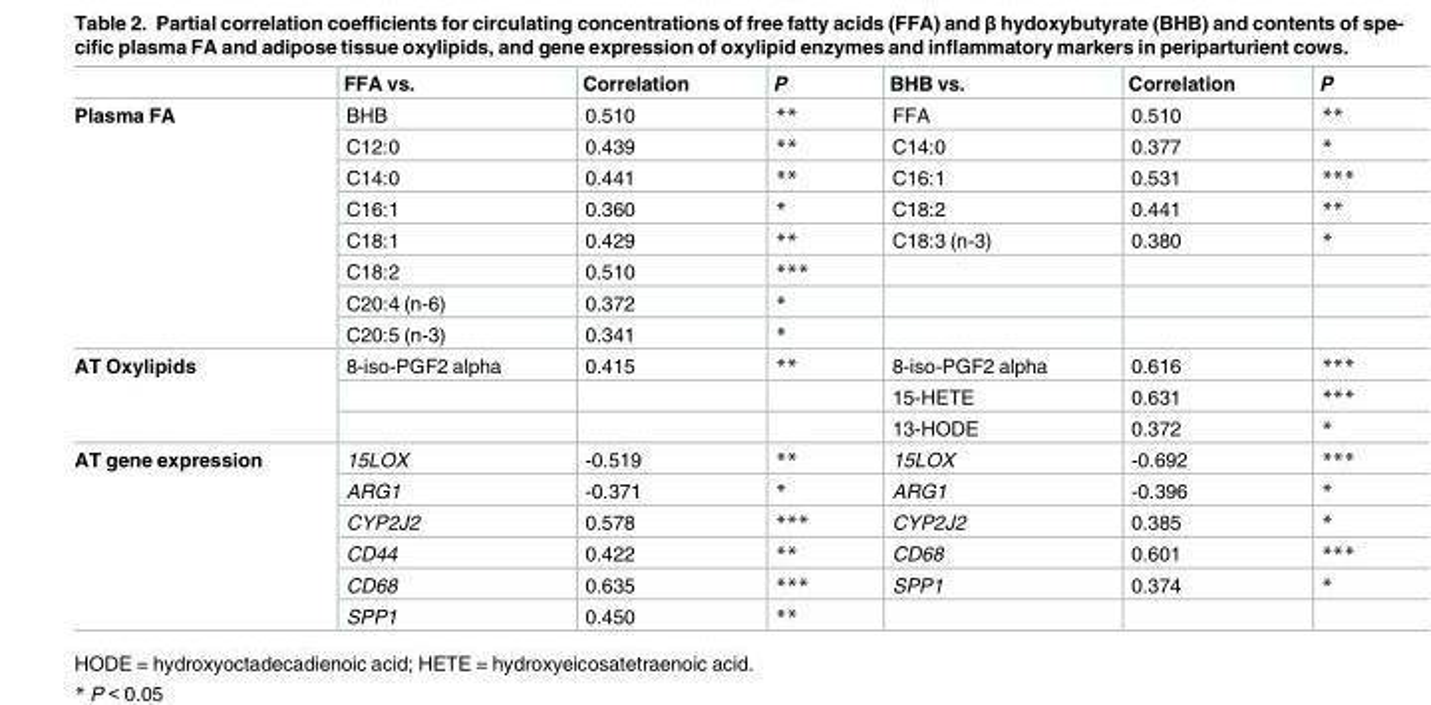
<table><thead><tr><td></td><td>FFA vs.</td><td>Correlation</td><td>P</td><td>BHB vs.</td><td>Correlation</td><td>P</td></tr></thead><tbody><tr><td rowspan="8">Plasma FA</td><td>BHB</td><td>0.510</td><td>**</td><td>FFA</td><td>0.510</td><td>**</td></tr><tr><td>C12:0</td><td>0.439</td><td>**</td><td>C14:0</td><td>0.377</td><td>*</td></tr><tr><td>C14:0</td><td>0.441</td><td>**</td><td>C16:1</td><td>0.531</td><td>***</td></tr><tr><td>C16:1</td><td>0.360</td><td>*</td><td>C18:2</td><td>0.441</td><td>**</td></tr><tr><td>C18:1</td><td>0.429</td><td>**</td><td>C18:3 (n-3)</td><td>0.380</td><td>*</td></tr><tr><td>C18:2</td><td>0.510</td><td>***</td><td></td><td></td><td></td></tr><tr><td>C20:4 (n-6)</td><td>0.372</td><td>*</td><td></td><td></td><td></td></tr><tr><td>C20:5 (n-3)</td><td>0.341</td><td>*</td><td></td><td></td><td></td></tr><tr><td rowspan="3">AT Oxylipids</td><td>8-iso-PGF2 alpha</td><td>0.415</td><td>**</td><td>8-iso-PGF2 alpha</td><td>0.616</td><td>***</td></tr><tr><td></td><td></td><td></td><td>15-HETE</td><td>0.631</td><td>***</td></tr><tr><td></td><td></td><td></td><td>13-HODE</td><td>0.372</td><td>*</td></tr><tr><td rowspan="6">AT gene expression</td><td>15LOX</td><td>-0.519</td><td>**</td><td>15LOX</td><td>-0.692</td><td>***</td></tr><tr><td>ARG1</td><td>-0.371</td><td>*</td><td>ARG1</td><td>-0.396</td><td>*</td></tr><tr><td>CYP2J2</td><td>0.578</td><td>***</td><td>CYP2J2</td><td>0.385</td><td>*</td></tr><tr><td>CD44</td><td>0.422</td><td>**</td><td>CD68</td><td>0.601</td><td>***</td></tr><tr><td>CD68</td><td>0.635</td><td>***</td><td>SPP1</td><td>0.374</td><td>*</td></tr><tr><td>SPP1</td><td>0.450</td><td>**</td><td></td><td></td><td></td></tr></tbody></table>